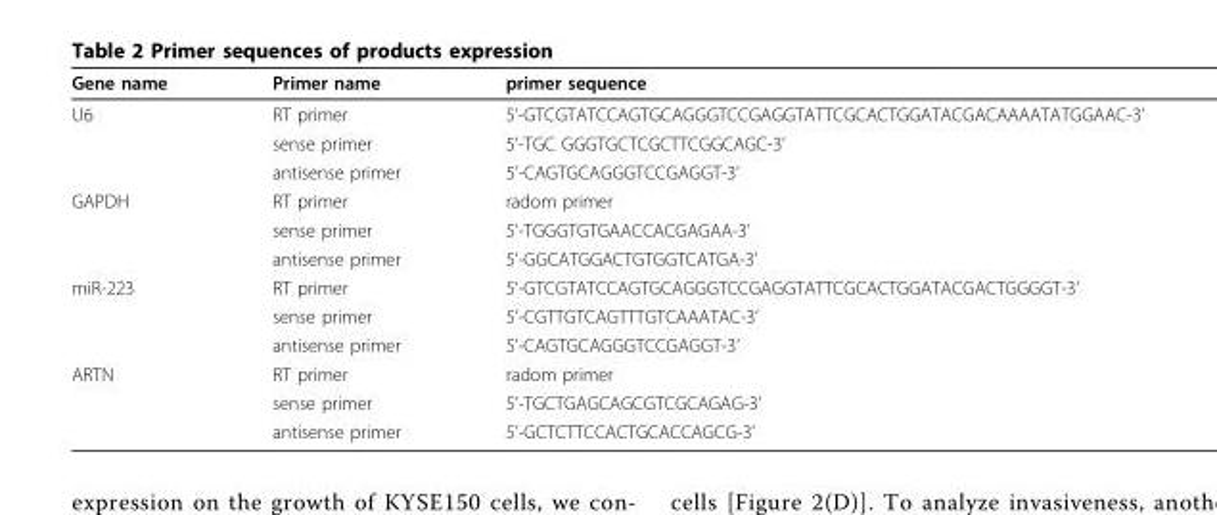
<table><thead><tr><td>Gene name</td><td>Primer name</td><td>primer sequence</td></tr></thead><tbody><tr><td rowspan="3">U6</td><td>RT primer</td><td>5’-GTCGTATCCAGTGCAGGGTCCGAGGTATTCGCACTGGATACGACAAAATATGGAAC-3’</td></tr><tr><td>sense primer</td><td>5’-TGC GGGTGCTCGCTTCGGCAGC-3’</td></tr><tr><td>antisense primer</td><td>5’-CAGTGCAGGGTCCGAGGT-3’</td></tr><tr><td rowspan="3">GAPDH</td><td>RT primer</td><td>radom primer</td></tr><tr><td>sense primer</td><td>5’-TGGGTGTGAACCACGAGAA-3’</td></tr><tr><td>antisense primer</td><td>5’-GGCATGGACTGTGGTCATGA-3’</td></tr><tr><td rowspan="3">miR-223</td><td>RT primer</td><td>5’-GTCGTATCCAGTGCAGGGTCCGAGGTATTCGCACTGGATACGACTGGGGT-3’</td></tr><tr><td>sense primer</td><td>5’-CGTTGTCAGTTTGTCAAATAC-3’</td></tr><tr><td>antisense primer</td><td>5’-CAGTGCAGGGTCCGAGGT-3’</td></tr><tr><td rowspan="3">ARTN</td><td>RT primer</td><td>radom primer</td></tr><tr><td>sense primer</td><td>5’-TGCTGAGCAGCGTCGCAGAG-3’</td></tr><tr><td>antisense primer</td><td>5’-GCTCTTCCACTGCACCAGCG-3’</td></tr></tbody></table>